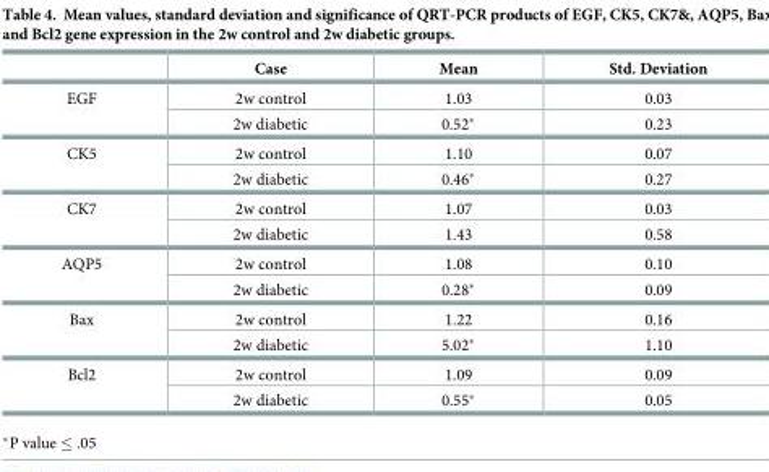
<table><thead><tr><td></td><td>Case</td><td>Mean</td><td>Std. Deviation</td></tr></thead><tbody><tr><td rowspan="2">EGF</td><td>2w control</td><td>1.03</td><td>0.03</td></tr><tr><td>2w diabetic</td><td>0.52*</td><td>0.23</td></tr><tr><td rowspan="2">CK5</td><td>2w control</td><td>1.10</td><td>0.07</td></tr><tr><td>2w diabetic</td><td>0.46*</td><td>0.27</td></tr><tr><td rowspan="2">CK7</td><td>2w control</td><td>1.07</td><td>0.03</td></tr><tr><td>2w diabetic</td><td>1.43</td><td>0.58</td></tr><tr><td rowspan="2">AQP5</td><td>2w control</td><td>1.08</td><td>0.10</td></tr><tr><td>2w diabetic</td><td>0.28*</td><td>0.09</td></tr><tr><td rowspan="2">Bax</td><td>2w control</td><td>1.22</td><td>0.16</td></tr><tr><td>2w diabetic</td><td>5.02*</td><td>1.10</td></tr><tr><td rowspan="2">Bcl2</td><td>2w control</td><td>1.09</td><td>0.09</td></tr><tr><td>2w diabetic</td><td>0.55*</td><td>0.05</td></tr></tbody></table>